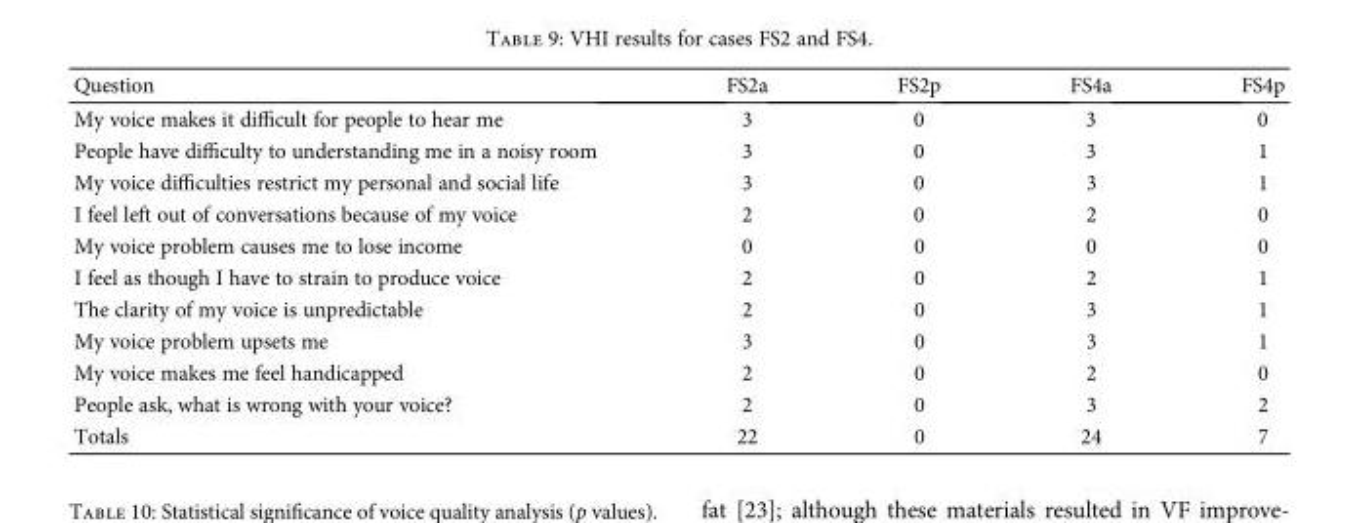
<table><thead><tr><td>Question</td><td>FS2a</td><td>FS2p</td><td>FS4a</td><td>FS4p</td></tr></thead><tbody><tr><td>My voice makes it difficult for people to hear me</td><td>3</td><td>0</td><td>3</td><td>0</td></tr><tr><td>People have difficulty to understanding me in a noisy room</td><td>3</td><td>0</td><td>3</td><td>1</td></tr><tr><td>My voice difficulties restrict my personal and social life</td><td>3</td><td>0</td><td>3</td><td>1</td></tr><tr><td>I feel left out of conversations because of my voice</td><td>2</td><td>0</td><td>2</td><td>0</td></tr><tr><td>My voice problem causes me to lose income</td><td>0</td><td>0</td><td>0</td><td>0</td></tr><tr><td>I feel as though I have to strain to produce voice</td><td>2</td><td>0</td><td>2</td><td>1</td></tr><tr><td>The clarity of my voice is unpredictable</td><td>2</td><td>0</td><td>3</td><td>1</td></tr><tr><td>My voice problem upsets me</td><td>3</td><td>0</td><td>3</td><td>1</td></tr><tr><td>My voice makes me feel handicapped</td><td>2</td><td>0</td><td>2</td><td>0</td></tr><tr><td>People ask, what is wrong with your voice?</td><td>2</td><td>0</td><td>3</td><td>2</td></tr><tr><td>Totals</td><td>22</td><td>0</td><td>24</td><td>7</td></tr></tbody></table>